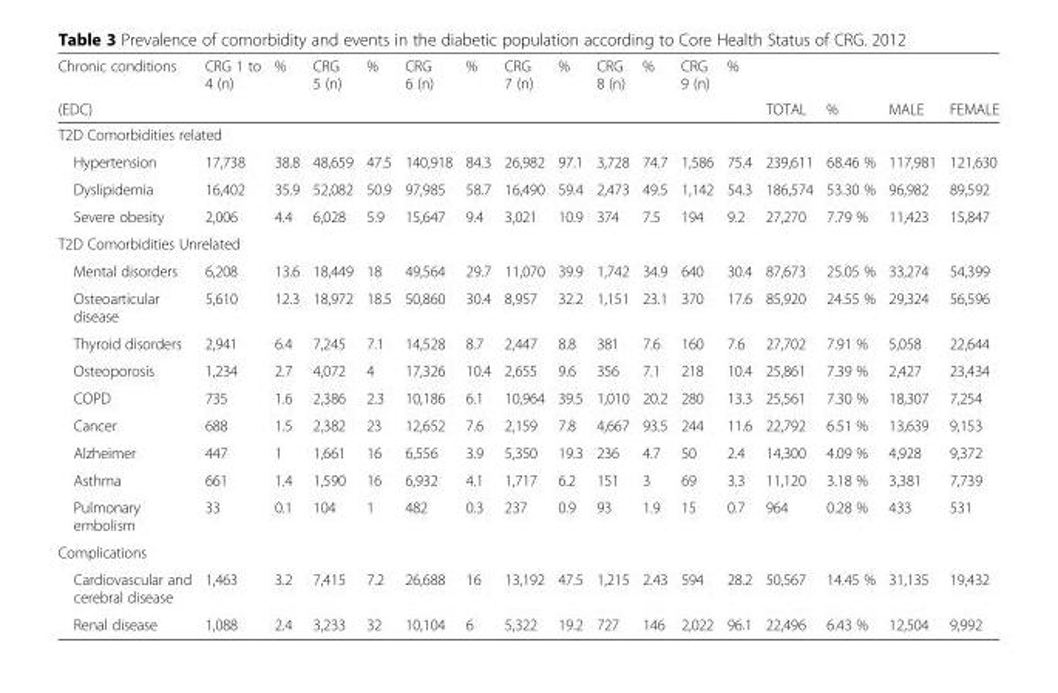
<table><thead><tr><td rowspan="2">Chronic conditions (EDC)</td><td rowspan="2">CRG 1 to 4 (n)</td><td rowspan="2">%</td><td rowspan="2">CRG 5 (n)</td><td rowspan="2">%</td><td rowspan="2">CRG 6 (n)</td><td rowspan="2">%</td><td rowspan="2">CRG 7 (n)</td><td rowspan="2">%</td><td rowspan="2">CRG 8 (n)</td><td rowspan="2">%</td><td rowspan="2">CRG 9 (n)</td><td rowspan="2">%</td><td rowspan="2">TOTAL</td><td rowspan="2">%</td><td rowspan="2">MALE</td><td rowspan="2">FEMALE</td></tr><tr></tr></thead><tbody><tr><td colspan="17">T2D Comorbidities related</td></tr><tr><td>Hypertension</td><td>17,738</td><td>38.8</td><td>48,659</td><td>47.5</td><td>140,918</td><td>84.3</td><td>26,982</td><td>97.1</td><td>3,728</td><td>74.7</td><td>1,586</td><td>75.4</td><td>239,611</td><td>68.46 %</td><td>117,981</td><td>121,630</td></tr><tr><td>Dyslipidemia</td><td>16,402</td><td>35.9</td><td>52,082</td><td>50.9</td><td>97,985</td><td>58.7</td><td>16,490</td><td>59.4</td><td>2,473</td><td>49.5</td><td>1,142</td><td>54.3</td><td>186,574</td><td>53.30 %</td><td>96,982</td><td>89,592</td></tr><tr><td>Severe obesity</td><td>2,006</td><td>4.4</td><td>6,028</td><td>5.9</td><td>15,647</td><td>9.4</td><td>3,021</td><td>10.9</td><td>374</td><td>7.5</td><td>194</td><td>9.2</td><td>27,270</td><td>7.79 %</td><td>11,423</td><td>15,847</td></tr><tr><td colspan="17">T2D Comorbidities Unrelated</td></tr><tr><td>Mental disorders</td><td>6,208</td><td>13.6</td><td>18,449</td><td>18</td><td>49,564</td><td>29.7</td><td>11,070</td><td>39.9</td><td>1,742</td><td>34.9</td><td>640</td><td>30.4</td><td>87,673</td><td>25.05 %</td><td>33,274</td><td>54,399</td></tr><tr><td>Osteoarticular disease</td><td>5,610</td><td>12.3</td><td>18,972</td><td>18.5</td><td>50,860</td><td>30.4</td><td>8,957</td><td>32.2</td><td>1,151</td><td>23.1</td><td>370</td><td>17.6</td><td>85,920</td><td>24.55 %</td><td>29,324</td><td>56,596</td></tr><tr><td>Thyroid disorders</td><td>2,941</td><td>6.4</td><td>7,245</td><td>7.1</td><td>14,528</td><td>8.7</td><td>2,447</td><td>8.8</td><td>381</td><td>7.6</td><td>160</td><td>7.6</td><td>27,702</td><td>7.91 %</td><td>5,058</td><td>22,644</td></tr><tr><td>Osteoporosis</td><td>1,234</td><td>2.7</td><td>4,072</td><td>4</td><td>17,326</td><td>10.4</td><td>2,655</td><td>9.6</td><td>356</td><td>7.1</td><td>218</td><td>10.4</td><td>25,861</td><td>7.39 %</td><td>2,427</td><td>23,434</td></tr><tr><td>COPD</td><td>735</td><td>1.6</td><td>2,386</td><td>2.3</td><td>10,186</td><td>6.1</td><td>10,964</td><td>39.5</td><td>1,010</td><td>20.2</td><td>280</td><td>13.3</td><td>25,561</td><td>7.30 %</td><td>18,307</td><td>7,254</td></tr><tr><td>Cancer</td><td>688</td><td>1.5</td><td>2,382</td><td>23</td><td>12,652</td><td>7.6</td><td>2,159</td><td>7.8</td><td>4,667</td><td>93.5</td><td>244</td><td>11.6</td><td>22,792</td><td>6.51 %</td><td>13,639</td><td>9,153</td></tr><tr><td>Alzheimer</td><td>447</td><td>1</td><td>1,661</td><td>16</td><td>6,556</td><td>3.9</td><td>5,350</td><td>19.3</td><td>236</td><td>4.7</td><td>50</td><td>2.4</td><td>14,300</td><td>4.09 %</td><td>4,928</td><td>9,372</td></tr><tr><td>Asthma</td><td>661</td><td>1.4</td><td>1,590</td><td>16</td><td>6,932</td><td>4.1</td><td>1,717</td><td>6.2</td><td>151</td><td>3</td><td>69</td><td>3.3</td><td>11,120</td><td>3.18 %</td><td>3,381</td><td>7,739</td></tr><tr><td>Pulmonary embolism</td><td>33</td><td>0.1</td><td>104</td><td>1</td><td>482</td><td>0.3</td><td>237</td><td>0.9</td><td>93</td><td>1.9</td><td>15</td><td>0.7</td><td>964</td><td>0.28 %</td><td>433</td><td>531</td></tr><tr><td colspan="17">Complications</td></tr><tr><td>Cardiovascular and cerebral disease</td><td>1,463</td><td>3.2</td><td>7,415</td><td>7.2</td><td>26,688</td><td>16</td><td>13,192</td><td>47.5</td><td>1,215</td><td>2.43</td><td>594</td><td>28.2</td><td>50,567</td><td>14.45 %</td><td>31,135</td><td>19,432</td></tr><tr><td>Renal disease</td><td>1,088</td><td>2.4</td><td>3,233</td><td>32</td><td>10,104</td><td>6</td><td>5,322</td><td>19.2</td><td>727</td><td>146</td><td>2,022</td><td>96.1</td><td>22,496</td><td>6.43 %</td><td>12,504</td><td>9,992</td></tr></tbody></table>